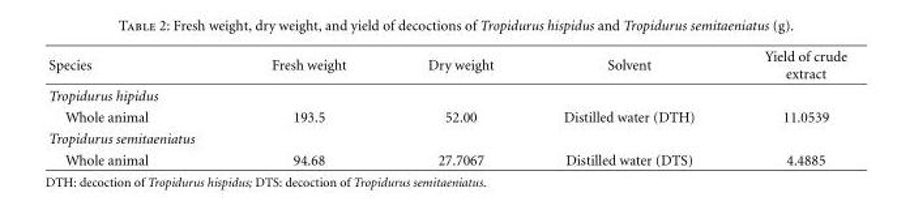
<table><thead><tr><td>Species</td><td>Fresh weight</td><td>Dry weight</td><td>Solvent</td><td>Yield of crude extract</td></tr></thead><tbody><tr><td colspan="5">Tropidurus hipidus</td></tr><tr><td>Whole animal</td><td>193.5</td><td>52.00</td><td>Distilled water (DTH)</td><td>11.0539</td></tr><tr><td colspan="5">Tropidurus semitaeniatus</td></tr><tr><td>Whole animal</td><td>94.68</td><td>27.7067</td><td>Distilled water (DTS)</td><td>4.4885</td></tr></tbody></table>